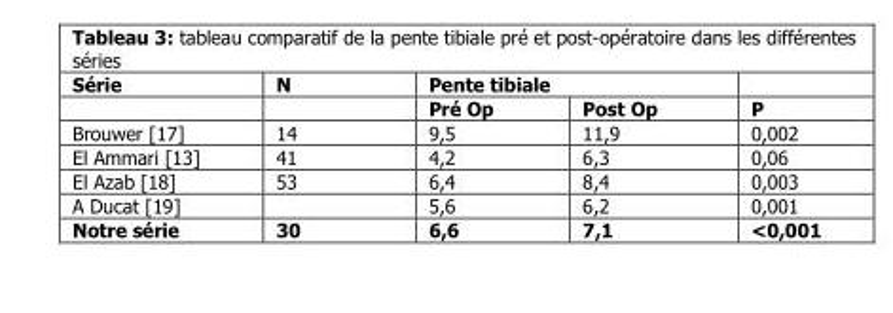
<table><thead><tr><td rowspan="2">Série</td><td rowspan="2">N</td><td colspan="2">Pente tibiale</td><td rowspan="2">P</td></tr><tr><td>Pré Op</td><td>Post Op</td></tr></thead><tbody><tr><td>Brouwer [17]</td><td>14</td><td>9,5</td><td>11,9</td><td>0,002</td></tr><tr><td>El Ammari [13]</td><td>41</td><td>4,2</td><td>6,3</td><td>0,06</td></tr><tr><td>El Azab [18]</td><td>53</td><td>6,4</td><td>8,4</td><td>0,003</td></tr><tr><td>A Ducat [19]</td><td></td><td>5,6</td><td>6,2</td><td>0,001</td></tr><tr><td>Notre série</td><td>30</td><td>6,6</td><td>7,1</td><td>&lt;0,001</td></tr></tbody></table>